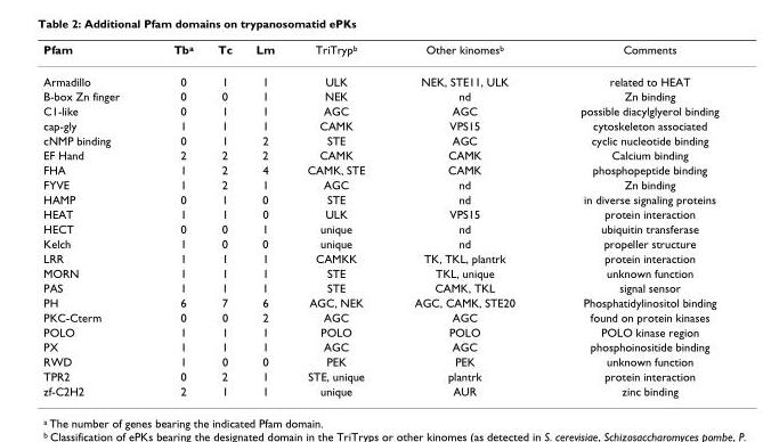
<table><thead><tr><td>Pfam</td><td>Tb<sup>a</sup></td><td>Tc</td><td>Lm</td><td>TriTryp<sup>b</sup></td><td>Other kinomes<sup>b</sup></td><td>Comments</td></tr></thead><tbody><tr><td>Armadillo</td><td>0</td><td>1</td><td>1</td><td>ULK</td><td>NEK, STE11, ULK</td><td>related to HEAT</td></tr><tr><td>B-box Zn finger</td><td>0</td><td>0</td><td>1</td><td>NEK</td><td>nd</td><td>Zn binding</td></tr><tr><td>C1-like</td><td>0</td><td>1</td><td>1</td><td>AGC</td><td>AGC</td><td>possible diacylglyerol binding</td></tr><tr><td>cap-gly</td><td>1</td><td>1</td><td>1</td><td>CAMK</td><td>VPS15</td><td>cytoskeleton associated</td></tr><tr><td>cNMP binding</td><td>0</td><td>1</td><td>2</td><td>STE</td><td>AGC</td><td>cyclic nucleotide binding</td></tr><tr><td>EF Hand</td><td>2</td><td>2</td><td>2</td><td>CAMK</td><td>CAMK</td><td>Calcium binding</td></tr><tr><td>FHA</td><td>1</td><td>2</td><td>4</td><td>CAMK, STE</td><td>CAMK</td><td>phosphopeptide binding</td></tr><tr><td>FYVE</td><td>1</td><td>2</td><td>1</td><td>AGC</td><td>nd</td><td>Zn binding</td></tr><tr><td>HAMP</td><td>0</td><td>1</td><td>0</td><td>STE</td><td>nd</td><td>in diverse signaling proteins</td></tr><tr><td>HEAT</td><td>1</td><td>1</td><td>0</td><td>ULK</td><td>VPS15</td><td>protein interaction</td></tr><tr><td>HECT</td><td>0</td><td>0</td><td>1</td><td>unique</td><td>nd</td><td>ubiquitin transferase</td></tr><tr><td>Kelch</td><td>1</td><td>0</td><td>0</td><td>unique</td><td>nd</td><td>propeller structure</td></tr><tr><td>LRR</td><td>1</td><td>1</td><td>1</td><td>CAMKK</td><td>TK, TKL, plantrk</td><td>protein interaction</td></tr><tr><td>MORN</td><td>1</td><td>1</td><td>1</td><td>STE</td><td>TKL, unique</td><td>unknown function</td></tr><tr><td>PAS</td><td>1</td><td>1</td><td>1</td><td>STE</td><td>CAMK, TKL</td><td>signal sensor</td></tr><tr><td>PH</td><td>6</td><td>7</td><td>6</td><td>AGC, NEK</td><td>AGC, CAMK, STE20</td><td>Phosphatidylinositol binding</td></tr><tr><td>PKC-Cterm</td><td>0</td><td>0</td><td>2</td><td>AGC</td><td>AGC</td><td>found on protein kinases</td></tr><tr><td>POLO</td><td>1</td><td>1</td><td>1</td><td>POLO</td><td>POLO</td><td>POLO kinase region</td></tr><tr><td>PX</td><td>1</td><td>1</td><td>1</td><td>AGC</td><td>AGC</td><td>phosphoinositide binding</td></tr><tr><td>RWD</td><td>1</td><td>0</td><td>0</td><td>PEK</td><td>PEK</td><td>unknown function</td></tr><tr><td>TPR2</td><td>0</td><td>2</td><td>1</td><td>STE, unique</td><td>plantrk</td><td>protein interaction</td></tr><tr><td>zf-C2H2</td><td>2</td><td>1</td><td>1</td><td>unique</td><td>AUR</td><td>zinc binding</td></tr></tbody></table>